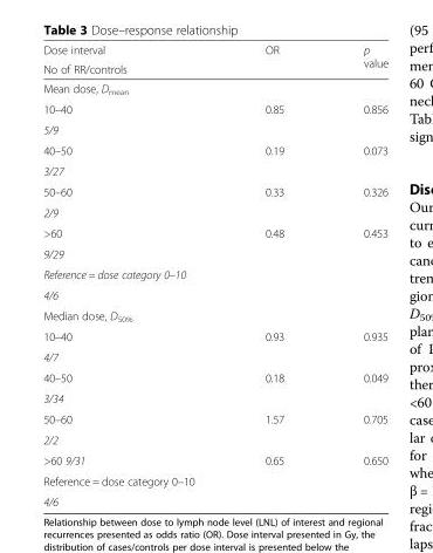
<table><thead><tr><td rowspan="2">Dose interval No of RR/controls</td><td rowspan="2">OR</td><td rowspan="2">p value</td></tr><tr></tr></thead><tbody><tr><td colspan="3">Mean dose, D<sub>mean</sub></td></tr><tr><td>10–40</td><td rowspan="2">0.85</td><td rowspan="2">0.856</td></tr><tr><td>5/9</td></tr><tr><td>40–50</td><td rowspan="2">0.19</td><td rowspan="2">0.073</td></tr><tr><td>3/27</td></tr><tr><td>50–60</td><td rowspan="2">0.33</td><td rowspan="2">0.326</td></tr><tr><td>2/9</td></tr><tr><td>&gt;60</td><td rowspan="2">0.48</td><td rowspan="2">0.453</td></tr><tr><td>9/29</td></tr><tr><td>Reference = dose category 0–10</td><td rowspan="2"></td><td rowspan="2"></td></tr><tr><td>4/6</td></tr><tr><td colspan="3">Median dose, D<sub>50%</sub></td></tr><tr><td>10–40</td><td rowspan="2">0.93</td><td rowspan="2">0.935</td></tr><tr><td>4/7</td></tr><tr><td>40–50</td><td rowspan="2">0.18</td><td rowspan="2">0.049</td></tr><tr><td>3/34</td></tr><tr><td>50–60</td><td rowspan="2">1.57</td><td rowspan="2">0.705</td></tr><tr><td>2/2</td></tr><tr><td>&gt;60 9/31</td><td>0.65</td><td>0.650</td></tr><tr><td colspan="3">Reference = dose category 0–10</td></tr><tr><td colspan="3">4/6</td></tr></tbody></table>